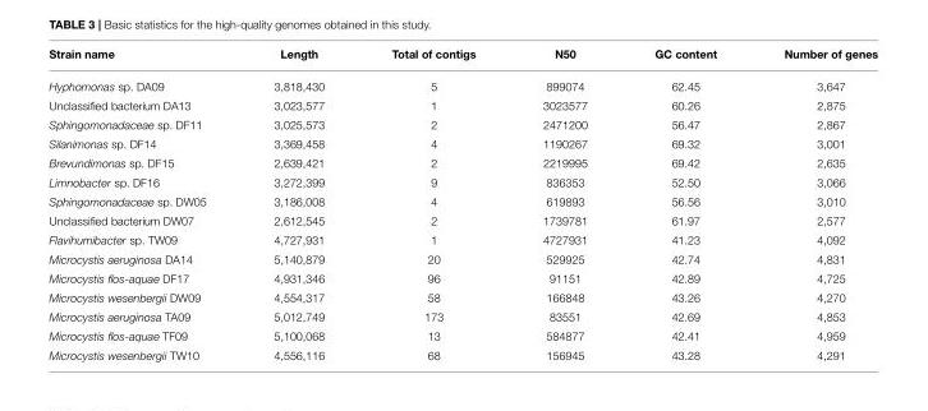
<table><thead><tr><td>Strain name</td><td>Length</td><td>Total of contigs</td><td>N50</td><td>GC content</td><td>Number of genes</td></tr></thead><tbody><tr><td>Hyphomonas sp. DA09</td><td>3,818,430</td><td>5</td><td>899074</td><td>62.45</td><td>3,647</td></tr><tr><td>Unclassified bacterium DA13</td><td>3,023,577</td><td>1</td><td>3023577</td><td>60.26</td><td>2,875</td></tr><tr><td>Sphingomonadaceae sp. DF11</td><td>3,025,573</td><td>2</td><td>2471200</td><td>56.47</td><td>2,867</td></tr><tr><td>Silanimonas sp. DF14</td><td>3,369,458</td><td>4</td><td>1190267</td><td>69.32</td><td>3,001</td></tr><tr><td>Brevundimonas sp. DF15</td><td>2,639,421</td><td>2</td><td>2219995</td><td>69.42</td><td>2,635</td></tr><tr><td>Limnobacter sp. DF16</td><td>3,272,399</td><td>9</td><td>836353</td><td>52.50</td><td>3,066</td></tr><tr><td>Sphingomonadaceae sp. DW05</td><td>3,186,008</td><td>4</td><td>619893</td><td>56.56</td><td>3,010</td></tr><tr><td>Unclassified bacterium DW07</td><td>2,612,545</td><td>2</td><td>1739781</td><td>61.97</td><td>2,577</td></tr><tr><td>Flavihumibacter sp. TW09</td><td>4,727,931</td><td>1</td><td>4727931</td><td>41.23</td><td>4,092</td></tr><tr><td>Microcystis aeruginosa DA14</td><td>5,140,879</td><td>20</td><td>529925</td><td>42.74</td><td>4,831</td></tr><tr><td>Microcystis flos-aquae DF17</td><td>4,931,346</td><td>96</td><td>91151</td><td>42.89</td><td>4,725</td></tr><tr><td>Microcystis wesenbergii DW09</td><td>4,554,317</td><td>58</td><td>166848</td><td>43.26</td><td>4,270</td></tr><tr><td>Microcystis aeruginosa TA09</td><td>5,012,749</td><td>173</td><td>83551</td><td>42.69</td><td>4,853</td></tr><tr><td>Microcystis flos-aquae TF09</td><td>5,100,068</td><td>13</td><td>584877</td><td>42.41</td><td>4,959</td></tr><tr><td>Microcystis wesenbergii TW10</td><td>4,556,116</td><td>68</td><td>156945</td><td>43.28</td><td>4,291</td></tr></tbody></table>